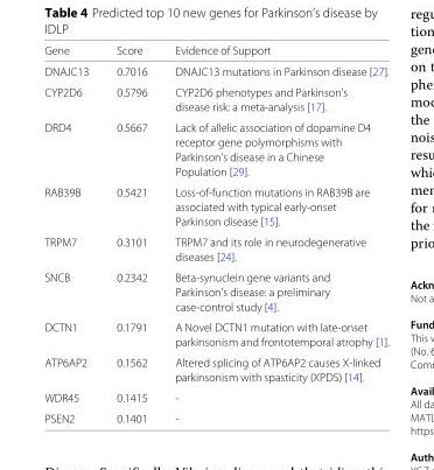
<table><thead><tr><td>Gene</td><td>Score</td><td>Evidence of Support</td></tr></thead><tbody><tr><td>DNAJC13</td><td>0.7016</td><td>DNAJC13 mutations in Parkinson disease [27].</td></tr><tr><td>CYP2D6</td><td>0.5796</td><td>CYP2D6 phenotypes and Parkinson’s disease risk: a meta-analysis [17].</td></tr><tr><td>DRD4</td><td>0.5667</td><td>Lack of allelic association of dopamine D4 receptor gene polymorphisms with Parkinson’s disease in a Chinese Population [29].</td></tr><tr><td>RAB39B</td><td>0.5421</td><td>Loss-of-function mutations in RAB39B are associated with typical early-onset Parkinson disease [15].</td></tr><tr><td>TRPM7</td><td>0.3101</td><td>TRPM7 and its role in neurodegenerative diseases [24].</td></tr><tr><td>SNCB</td><td>0.2342</td><td>Beta-synuclein gene variants and Parkinson’s disease: a preliminary case-control study [4].</td></tr><tr><td>DCTN1</td><td>0.1791</td><td>A Novel DCTN1 mutation with late-onset parkinsonism and frontotemporal atrophy [1].</td></tr><tr><td>ATP6AP2</td><td>0.1562</td><td>Altered splicing of ATP6AP2 causes X-linked parkinsonism with spasticity (XPDS) [14].</td></tr><tr><td>WDR45</td><td>0.1415</td><td>-</td></tr><tr><td>PSEN2</td><td>0.1401</td><td>-</td></tr></tbody></table>